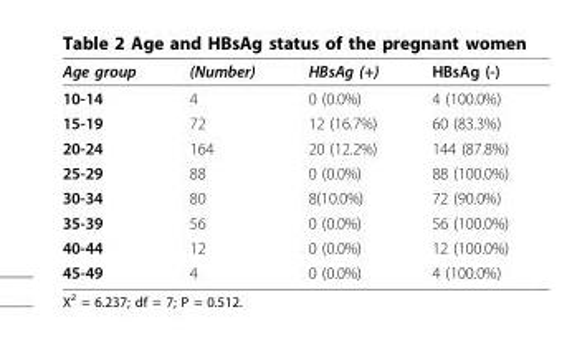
<table><thead><tr><td>Age group</td><td>(Number)</td><td>HBsAg (+)</td><td>HBsAg (-)</td></tr></thead><tbody><tr><td>10-14</td><td>4</td><td>0 (0.0%)</td><td>4 (100.0%)</td></tr><tr><td>15-19</td><td>72</td><td>12 (16.7%)</td><td>60 (83.3%)</td></tr><tr><td>20-24</td><td>164</td><td>20 (12.2%)</td><td>144 (87.8%)</td></tr><tr><td>25-29</td><td>88</td><td>0 (0.0%)</td><td>88 (100.0%)</td></tr><tr><td>30-34</td><td>80</td><td>8(10.0%)</td><td>72 (90.0%)</td></tr><tr><td>35-39</td><td>56</td><td>0 (0.0%)</td><td>56 (100.0%)</td></tr><tr><td>40-44</td><td>12</td><td>0 (0.0%)</td><td>12 (100.0%)</td></tr><tr><td>45-49</td><td>4</td><td>0 (0.0%)</td><td>4 (100.0%)</td></tr></tbody></table>